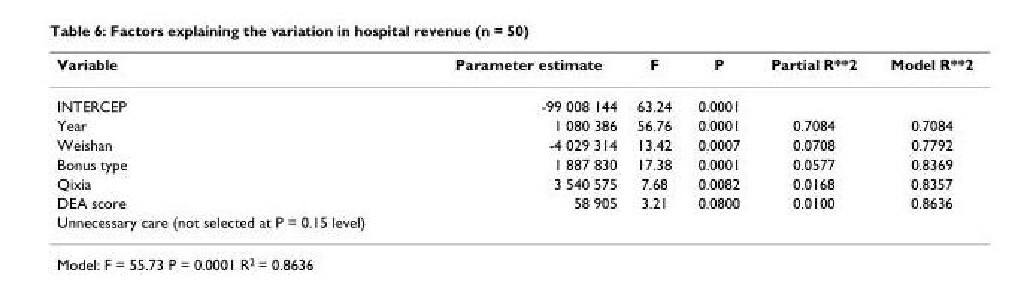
<table><thead><tr><td>Variable</td><td>Parameter estimate</td><td>F</td><td>P</td><td>Partial R**2</td><td>Model R**2</td></tr></thead><tbody><tr><td>INTERCEP</td><td>-99 008 144</td><td>63.24</td><td>0.0001</td><td></td><td></td></tr><tr><td>Year</td><td>1 080 386</td><td>56.76</td><td>0.0001</td><td>0.7084</td><td>0.7084</td></tr><tr><td>Weishan</td><td>-4 029 314</td><td>13.42</td><td>0.0007</td><td>0.0708</td><td>0.7792</td></tr><tr><td>Bonus type</td><td>1 887 830</td><td>17.38</td><td>0.0001</td><td>0.0577</td><td>0.8369</td></tr><tr><td>Qixia</td><td>3 540 575</td><td>7.68</td><td>0.0082</td><td>0.0168</td><td>0.8357</td></tr><tr><td>DEA score</td><td>58 905</td><td>3.21</td><td>0.0800</td><td>0.0100</td><td>0.8636</td></tr><tr><td>Unnecessary care (not selected at P = 0.15 level)</td><td></td><td></td><td></td><td></td><td></td></tr></tbody></table>